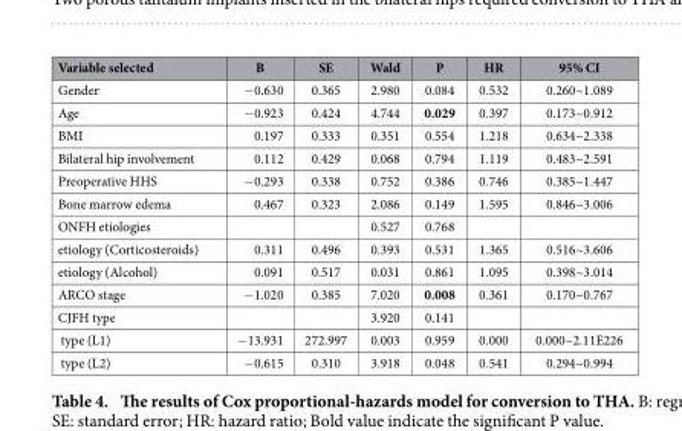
<table><thead><tr><td>Variable selected</td><td>B</td><td>SE</td><td>Wald</td><td>P</td><td>HR</td><td>95% CI</td></tr></thead><tbody><tr><td>Gender</td><td>− 0.630</td><td>0.365</td><td>2.980</td><td>0.084</td><td>0.532</td><td>0.260~1.089</td></tr><tr><td>Age</td><td>− 0.923</td><td>0.424</td><td>4.744</td><td>0.029</td><td>0.397</td><td>0.173~0.912</td></tr><tr><td>BMI</td><td>0.197</td><td>0.333</td><td>0.351</td><td>0.554</td><td>1.218</td><td>0.634~2.338</td></tr><tr><td>Bilateral hip involvement</td><td>0.112</td><td>0.429</td><td>0.068</td><td>0.794</td><td>1.119</td><td>0.483~2.591</td></tr><tr><td>Preoperative HHS</td><td>− 0.293</td><td>0.338</td><td>0.752</td><td>0.386</td><td>0.746</td><td>0.385~1.447</td></tr><tr><td>Bone marrow edema</td><td>0.467</td><td>0.323</td><td>2.086</td><td>0.149</td><td>1.595</td><td>0.846~3.006</td></tr><tr><td>ONFH etiologies</td><td></td><td></td><td>0.527</td><td>0.768</td><td></td><td></td></tr><tr><td>etiology (Corticosteroids)</td><td>0.311</td><td>0.496</td><td>0.393</td><td>0.531</td><td>1.365</td><td>0.516~3.606</td></tr><tr><td>etiology (Alcohol)</td><td>0.091</td><td>0.517</td><td>0.031</td><td>0.861</td><td>1.095</td><td>0.398~3.014</td></tr><tr><td>ARCO stage</td><td>− 1.020</td><td>0.385</td><td>7.020</td><td>0.008</td><td>0.361</td><td>0.170~0.767</td></tr><tr><td>CJFH type</td><td></td><td></td><td>3.920</td><td>0.141</td><td></td><td></td></tr><tr><td>type (L1)</td><td>− 13.931</td><td>272.997</td><td>0.003</td><td>0.959</td><td>0.000</td><td>0.000~2.11E226</td></tr><tr><td>type (L2)</td><td>− 0.615</td><td>0.310</td><td>3.918</td><td>0.048</td><td>0.541</td><td>0.294~0.994</td></tr></tbody></table>